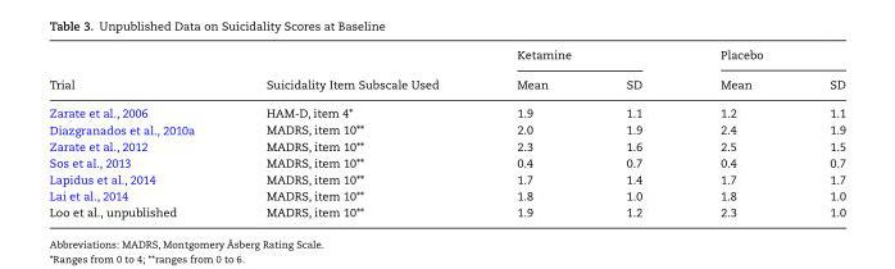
<table><thead><tr><td rowspan="2">Trial</td><td rowspan="2">Suicidality Item Subscale Used</td><td colspan="2">Ketamine</td><td colspan="2">Placebo</td></tr><tr><td>Mean</td><td>SD</td><td>Mean</td><td>SD</td></tr></thead><tbody><tr><td>Zarate et al., 2006</td><td>HAM-D, item 4*</td><td>1.9</td><td>1.1</td><td>1.2</td><td>1.1</td></tr><tr><td>Diazgranados et al., 2010a</td><td>MADRS, item 10**</td><td>2.0</td><td>1.9</td><td>2.4</td><td>1.9</td></tr><tr><td>Zarate et al., 2012</td><td>MADRS, item 10**</td><td>2.3</td><td>1.6</td><td>2.5</td><td>1.5</td></tr><tr><td>Sos et al., 2013</td><td>MADRS, item 10**</td><td>0.4</td><td>0.7</td><td>0.4</td><td>0.7</td></tr><tr><td>Lapidus et al., 2014</td><td>MADRS, item 10**</td><td>1.7</td><td>1.4</td><td>1.7</td><td>1.7</td></tr><tr><td>Lai et al., 2014</td><td>MADRS, item 10**</td><td>1.8</td><td>1.0</td><td>1.8</td><td>1.0</td></tr><tr><td>Loo et al., unpublished</td><td>MADRS, item 10**</td><td>1.9</td><td>1.2</td><td>2.3</td><td>1.0</td></tr></tbody></table>